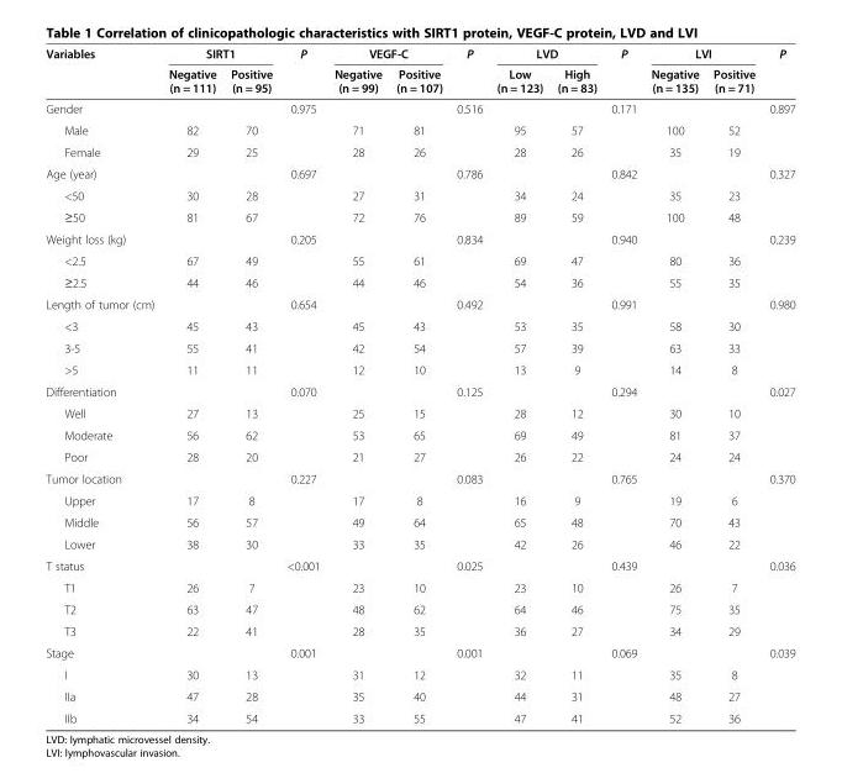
<table><thead><tr><td rowspan="2">Variables</td><td colspan="2">SIRT1</td><td rowspan="2">P</td><td colspan="2">VEGF-C</td><td rowspan="2">P</td><td colspan="2">LVD</td><td rowspan="2">P</td><td colspan="2">LVI</td><td rowspan="2">P</td></tr><tr><td>Negative (n = 111)</td><td>Positive (n = 95)</td><td>Negative (n = 99)</td><td>Positive (n = 107)</td><td>Low (n = 123)</td><td>High (n = 83)</td><td>Negative (n = 135)</td><td>Positive (n = 71)</td></tr></thead><tbody><tr><td>Gender</td><td></td><td></td><td>0.975</td><td></td><td></td><td>0.516</td><td></td><td></td><td>0.171</td><td></td><td></td><td>0.897</td></tr><tr><td>Male</td><td>82</td><td>70</td><td></td><td>71</td><td>81</td><td></td><td>95</td><td>57</td><td></td><td>100</td><td>52</td><td></td></tr><tr><td>Female</td><td>29</td><td>25</td><td></td><td>28</td><td>26</td><td></td><td>28</td><td>26</td><td></td><td>35</td><td>19</td><td></td></tr><tr><td>Age (year)</td><td></td><td></td><td>0.697</td><td></td><td></td><td>0.786</td><td></td><td></td><td>0.842</td><td></td><td></td><td>0.327</td></tr><tr><td>&lt;50</td><td>30</td><td>28</td><td></td><td>27</td><td>31</td><td></td><td>34</td><td>24</td><td></td><td>35</td><td>23</td><td></td></tr><tr><td>≥50</td><td>81</td><td>67</td><td></td><td>72</td><td>76</td><td></td><td>89</td><td>59</td><td></td><td>100</td><td>48</td><td></td></tr><tr><td>Weight loss (kg)</td><td></td><td></td><td>0.205</td><td></td><td></td><td>0.834</td><td></td><td></td><td>0.940</td><td></td><td></td><td>0.239</td></tr><tr><td>&lt;2.5</td><td>67</td><td>49</td><td></td><td>55</td><td>61</td><td></td><td>69</td><td>47</td><td></td><td>80</td><td>36</td><td></td></tr><tr><td>≥2.5</td><td>44</td><td>46</td><td></td><td>44</td><td>46</td><td></td><td>54</td><td>36</td><td></td><td>55</td><td>35</td><td></td></tr><tr><td>Length of tumor (cm)</td><td></td><td></td><td>0.654</td><td></td><td></td><td>0.492</td><td></td><td></td><td>0.991</td><td></td><td></td><td>0.980</td></tr><tr><td>&lt;3</td><td>45</td><td>43</td><td></td><td>45</td><td>43</td><td></td><td>53</td><td>35</td><td></td><td>58</td><td>30</td><td></td></tr><tr><td>3-5</td><td>55</td><td>41</td><td></td><td>42</td><td>54</td><td></td><td>57</td><td>39</td><td></td><td>63</td><td>33</td><td></td></tr><tr><td>&gt;5</td><td>11</td><td>11</td><td></td><td>12</td><td>10</td><td></td><td>13</td><td>9</td><td></td><td>14</td><td>8</td><td></td></tr><tr><td>Differentiation</td><td></td><td></td><td>0.070</td><td></td><td></td><td>0.125</td><td></td><td></td><td>0.294</td><td></td><td></td><td>0.027</td></tr><tr><td>Well</td><td>27</td><td>13</td><td></td><td>25</td><td>15</td><td></td><td>28</td><td>12</td><td></td><td>30</td><td>10</td><td></td></tr><tr><td>Moderate</td><td>56</td><td>62</td><td></td><td>53</td><td>65</td><td></td><td>69</td><td>49</td><td></td><td>81</td><td>37</td><td></td></tr><tr><td>Poor</td><td>28</td><td>20</td><td></td><td>21</td><td>27</td><td></td><td>26</td><td>22</td><td></td><td>24</td><td>24</td><td></td></tr><tr><td>Tumor location</td><td></td><td></td><td>0.227</td><td></td><td></td><td>0.083</td><td></td><td></td><td>0.765</td><td></td><td></td><td>0.370</td></tr><tr><td>Upper</td><td>17</td><td>8</td><td></td><td>17</td><td>8</td><td></td><td>16</td><td>9</td><td></td><td>19</td><td>6</td><td></td></tr><tr><td>Middle</td><td>56</td><td>57</td><td></td><td>49</td><td>64</td><td></td><td>65</td><td>48</td><td></td><td>70</td><td>43</td><td></td></tr><tr><td>Lower</td><td>38</td><td>30</td><td></td><td>33</td><td>35</td><td></td><td>42</td><td>26</td><td></td><td>46</td><td>22</td><td></td></tr><tr><td>T status</td><td></td><td></td><td>&lt;0.001</td><td></td><td></td><td>0.025</td><td></td><td></td><td>0.439</td><td></td><td></td><td>0.036</td></tr><tr><td>T1</td><td>26</td><td>7</td><td></td><td>23</td><td>10</td><td></td><td>23</td><td>10</td><td></td><td>26</td><td>7</td><td></td></tr><tr><td>T2</td><td>63</td><td>47</td><td></td><td>48</td><td>62</td><td></td><td>64</td><td>46</td><td></td><td>75</td><td>35</td><td></td></tr><tr><td>T3</td><td>22</td><td>41</td><td></td><td>28</td><td>35</td><td></td><td>36</td><td>27</td><td></td><td>34</td><td>29</td><td></td></tr><tr><td>Stage</td><td></td><td></td><td>0.001</td><td></td><td></td><td>0.001</td><td></td><td></td><td>0.069</td><td></td><td></td><td>0.039</td></tr><tr><td>I</td><td>30</td><td>13</td><td></td><td>31</td><td>12</td><td></td><td>32</td><td>11</td><td></td><td>35</td><td>8</td><td></td></tr><tr><td>IIa</td><td>47</td><td>28</td><td></td><td>35</td><td>40</td><td></td><td>44</td><td>31</td><td></td><td>48</td><td>27</td><td></td></tr><tr><td>IIb</td><td>34</td><td>54</td><td></td><td>33</td><td>55</td><td></td><td>47</td><td>41</td><td></td><td>52</td><td>36</td><td></td></tr></tbody></table>